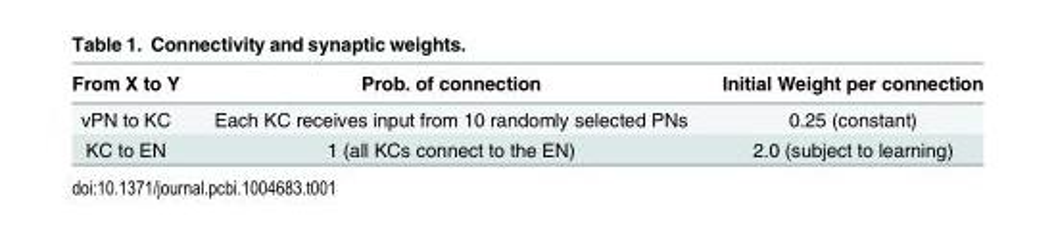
<table><thead><tr><td>From X to Y</td><td>Prob. of connection</td><td>Initial Weight per connection</td></tr></thead><tbody><tr><td>vPN to KC</td><td>Each KC receives input from 10 randomly selected PNs</td><td>0.25 (constant)</td></tr><tr><td>KC to EN</td><td>1 (all KCs connect to the EN)</td><td>2.0 (subject to learning)</td></tr></tbody></table>